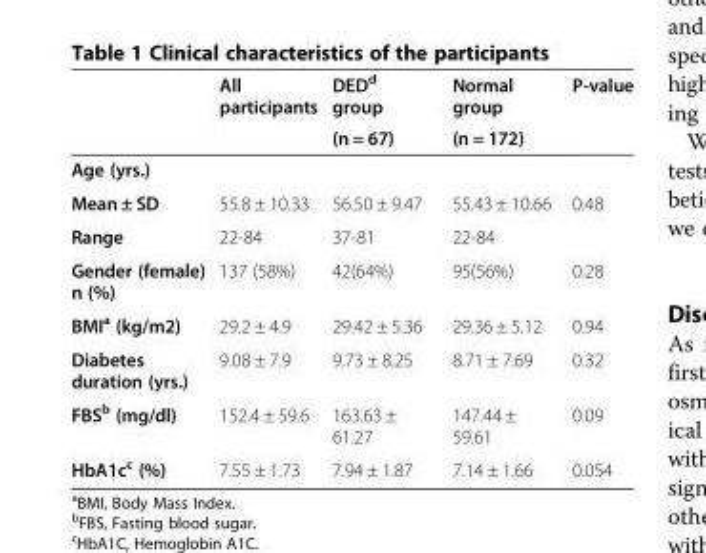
<table><thead><tr><td rowspan="2"></td><td rowspan="2">All participants</td><td rowspan="2">DED<sup>d</sup> group (n = 67)</td><td rowspan="2">Normal group (n = 172)</td><td rowspan="2">P-value</td></tr><tr></tr></thead><tbody><tr><td colspan="5">Age (yrs.)</td></tr><tr><td>Mean ± SD</td><td>55.8 ± 10.33</td><td>56.50 ± 9.47</td><td>55.43 ± 10.66</td><td>0.48</td></tr><tr><td>Range</td><td>22-84</td><td>37-81</td><td>22-84</td><td></td></tr><tr><td>Gender (female) n (%)</td><td>137 (58%)</td><td>42(64%)</td><td>95(56%)</td><td>0.28</td></tr><tr><td>BMI<sup>a</sup> (kg/m2)</td><td>29.2 ± 4.9</td><td>29.42 ± 5.36</td><td>29.36 ± 5.12</td><td>0.94</td></tr><tr><td>Diabetes duration (yrs.)</td><td>9.08 ± 7.9</td><td>9.73 ± 8.25</td><td>8.71 ± 7.69</td><td>0.32</td></tr><tr><td>FBS<sup>b</sup> (mg/dl)</td><td>152.4 ± 59.6</td><td>163.63 ± 61.27</td><td>147.44 ± 59.61</td><td>0.09</td></tr><tr><td>HbA1c<sup>c</sup> (%)</td><td>7.55 ± 1.73</td><td>7.94 ± 1.87</td><td>7.14 ± 1.66</td><td>0.054</td></tr></tbody></table>